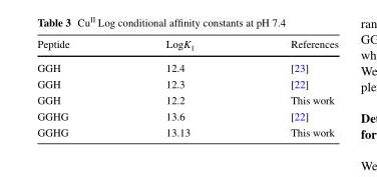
<table><thead><tr><td>Peptide</td><td>LogK<sub>1</sub></td><td>References</td></tr></thead><tbody><tr><td>GGH</td><td>12.4</td><td>[23]</td></tr><tr><td>GGH</td><td>12.3</td><td>[22]</td></tr><tr><td>GGH</td><td>12.2</td><td>This work</td></tr><tr><td>GGHG</td><td>13.6</td><td>[22]</td></tr><tr><td>GGHG</td><td>13.13</td><td>This work</td></tr></tbody></table>